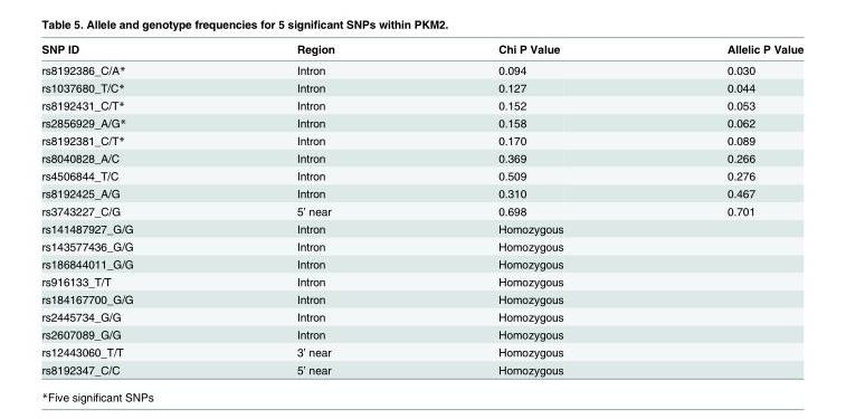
<table><thead><tr><td>SNP ID</td><td>Region</td><td>Chi P Value</td><td>Allelic P Value</td></tr></thead><tbody><tr><td>rs8192386_C/A*</td><td>Intron</td><td>0.094</td><td>0.030</td></tr><tr><td>rs1037680_T/C*</td><td>Intron</td><td>0.127</td><td>0.044</td></tr><tr><td>rs8192431_C/T*</td><td>Intron</td><td>0.152</td><td>0.053</td></tr><tr><td>rs2856929_A/G*</td><td>Intron</td><td>0.158</td><td>0.062</td></tr><tr><td>rs8192381_C/T*</td><td>Intron</td><td>0.170</td><td>0.089</td></tr><tr><td>rs8040828_A/C</td><td>Intron</td><td>0.369</td><td>0.266</td></tr><tr><td>rs4506844_T/C</td><td>Intron</td><td>0.509</td><td>0.276</td></tr><tr><td>rs8192425_A/G</td><td>Intron</td><td>0.310</td><td>0.467</td></tr><tr><td>rs3743227_C/G</td><td>5’ near</td><td>0.698</td><td>0.701</td></tr><tr><td>rs141487927_G/G</td><td>Intron</td><td>Homozygous</td><td></td></tr><tr><td>rs143577436_G/G</td><td>Intron</td><td>Homozygous</td><td></td></tr><tr><td>rs186844011_G/G</td><td>Intron</td><td>Homozygous</td><td></td></tr><tr><td>rs916133_T/T</td><td>Intron</td><td>Homozygous</td><td></td></tr><tr><td>rs184167700_G/G</td><td>Intron</td><td>Homozygous</td><td></td></tr><tr><td>rs2445734_G/G</td><td>Intron</td><td>Homozygous</td><td></td></tr><tr><td>rs2607089_G/G</td><td>Intron</td><td>Homozygous</td><td></td></tr><tr><td>rs12443060_T/T</td><td>3’ near</td><td>Homozygous</td><td></td></tr><tr><td>rs8192347_C/C</td><td>5’ near</td><td>Homozygous</td><td></td></tr></tbody></table>